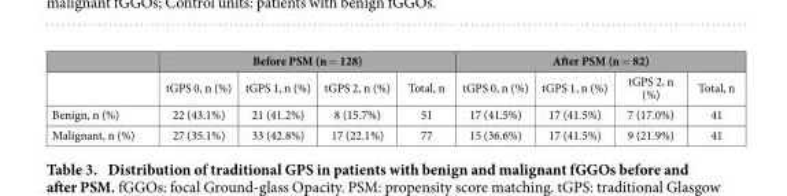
<table><thead><tr><td rowspan="2"></td><td colspan="4">Before PSM (n = 128)</td><td colspan="4">After PSM (n = 82)</td></tr><tr><td>tGPS 0, n (%)</td><td>tGPS 1, n (%)</td><td>tGPS 2, n (%)</td><td>Total, n</td><td>tGPS 0, n (%)</td><td>tGPS 1, n (%)</td><td>tGPS 2, n (%)</td><td>Total, n</td></tr></thead><tbody><tr><td>Benign, n (%)</td><td>22 (43.1%)</td><td>21 (41.2%)</td><td>8 (15.7%)</td><td>51</td><td>17 (41.5%)</td><td>17 (41.5%)</td><td>7 (17.0%)</td><td>41</td></tr><tr><td>Malignant, n (%)</td><td>27 (35.1%)</td><td>33 (42.8%)</td><td>17 (22.1%)</td><td>77</td><td>15 (36.6%)</td><td>17 (41.5%)</td><td>9 (21.9%)</td><td>41</td></tr></tbody></table>